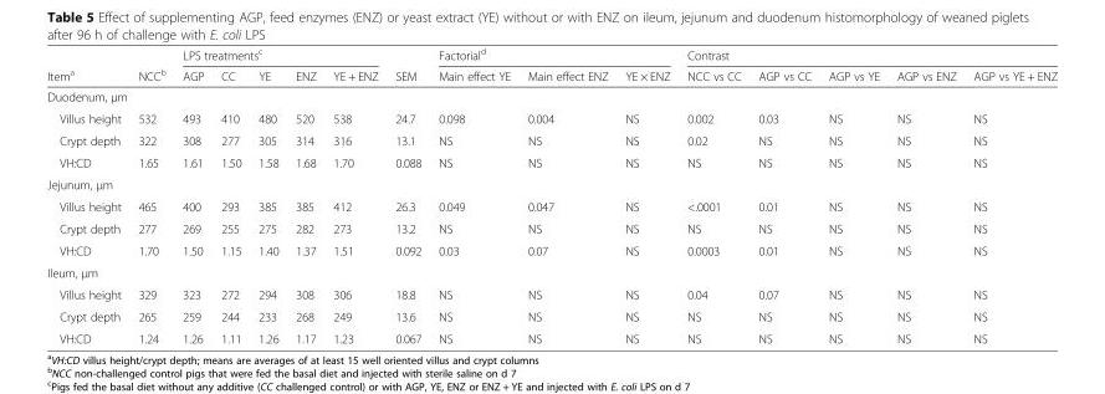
<table><thead><tr><td rowspan="2">Item<sup>a</sup></td><td rowspan="2">NCC<sup>b</sup></td><td colspan="5">LPS treatments<sup>c</sup></td><td rowspan="2">SEM</td><td colspan="3">Factorial<sup>d</sup></td><td colspan="5">Contrast</td></tr><tr><td>AGP</td><td>CC</td><td>YE</td><td>ENZ</td><td>YE + ENZ</td><td>Main effect YE</td><td>Main effect ENZ</td><td>YE × ENZ</td><td>NCC vs CC</td><td>AGP vs CC</td><td>AGP vs YE</td><td>AGP vs ENZ</td><td>AGP vs YE + ENZ</td></tr></thead><tbody><tr><td colspan="16">Duodenum, μm</td></tr><tr><td>Villus height</td><td>532</td><td>493</td><td>410</td><td>480</td><td>520</td><td>538</td><td>24.7</td><td>0.098</td><td>0.004</td><td>NS</td><td>0.002</td><td>0.03</td><td>NS</td><td>NS</td><td>NS</td></tr><tr><td>Crypt depth</td><td>322</td><td>308</td><td>277</td><td>305</td><td>314</td><td>316</td><td>13.1</td><td>NS</td><td>NS</td><td>NS</td><td>0.02</td><td>NS</td><td>NS</td><td>NS</td><td>NS</td></tr><tr><td>VH:CD</td><td>1.65</td><td>1.61</td><td>1.50</td><td>1.58</td><td>1.68</td><td>1.70</td><td>0.088</td><td>NS</td><td>NS</td><td>NS</td><td>NS</td><td>NS</td><td>NS</td><td>NS</td><td>NS</td></tr><tr><td colspan="16">Jejunum, μm</td></tr><tr><td>Villus height</td><td>465</td><td>400</td><td>293</td><td>385</td><td>385</td><td>412</td><td>26.3</td><td>0.049</td><td>0.047</td><td>NS</td><td>&lt;.0001</td><td>0.01</td><td>NS</td><td>NS</td><td>NS</td></tr><tr><td>Crypt depth</td><td>277</td><td>269</td><td>255</td><td>275</td><td>282</td><td>273</td><td>13.2</td><td>NS</td><td>NS</td><td>NS</td><td>NS</td><td>NS</td><td>NS</td><td>NS</td><td>NS</td></tr><tr><td>VH:CD</td><td>1.70</td><td>1.50</td><td>1.15</td><td>1.40</td><td>1.37</td><td>1.51</td><td>0.092</td><td>0.03</td><td>0.07</td><td>NS</td><td>0.0003</td><td>0.01</td><td>NS</td><td>NS</td><td>NS</td></tr><tr><td colspan="16">Ileum, μm</td></tr><tr><td>Villus height</td><td>329</td><td>323</td><td>272</td><td>294</td><td>308</td><td>306</td><td>18.8</td><td>NS</td><td>NS</td><td>NS</td><td>0.04</td><td>0.07</td><td>NS</td><td>NS</td><td>NS</td></tr><tr><td>Crypt depth</td><td>265</td><td>259</td><td>244</td><td>233</td><td>268</td><td>249</td><td>13.6</td><td>NS</td><td>NS</td><td>NS</td><td>NS</td><td>NS</td><td>NS</td><td>NS</td><td>NS</td></tr><tr><td>VH:CD</td><td>1.24</td><td>1.26</td><td>1.11</td><td>1.26</td><td>1.17</td><td>1.23</td><td>0.067</td><td>NS</td><td>NS</td><td>NS</td><td>NS</td><td>NS</td><td>NS</td><td>NS</td><td>NS</td></tr></tbody></table>